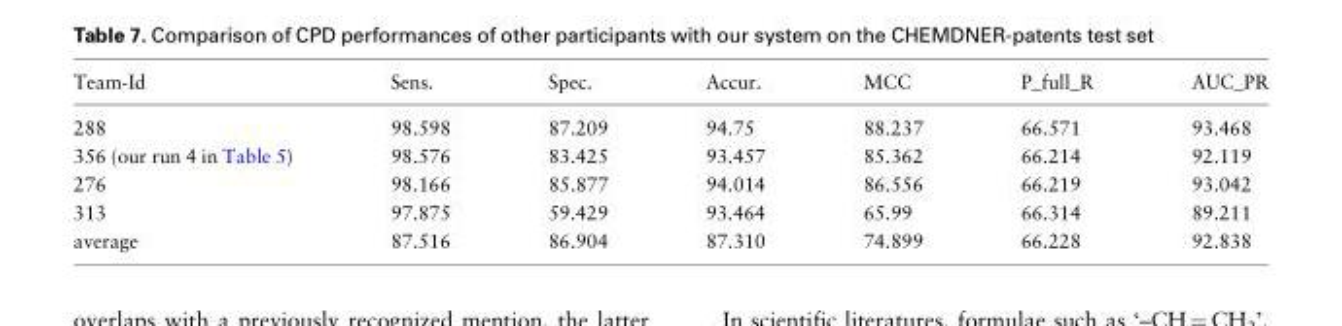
<table><thead><tr><td>Team-Id</td><td>Sens.</td><td>Spec.</td><td>Accur.</td><td>MCC</td><td>P_full_R</td><td>AUC_PR</td></tr></thead><tbody><tr><td>288</td><td>98.598</td><td>87.209</td><td>94.75</td><td>88.237</td><td>66.571</td><td>93.468</td></tr><tr><td>356 (our run 4 in Table 5)</td><td>98.576</td><td>83.425</td><td>93.457</td><td>85.362</td><td>66.214</td><td>92.119</td></tr><tr><td>276</td><td>98.166</td><td>85.877</td><td>94.014</td><td>86.556</td><td>66.219</td><td>93.042</td></tr><tr><td>313</td><td>97.875</td><td>59.429</td><td>93.464</td><td>65.99</td><td>66.314</td><td>89.211</td></tr><tr><td>average</td><td>87.516</td><td>86.904</td><td>87.310</td><td>74.899</td><td>66.228</td><td>92.838</td></tr></tbody></table>